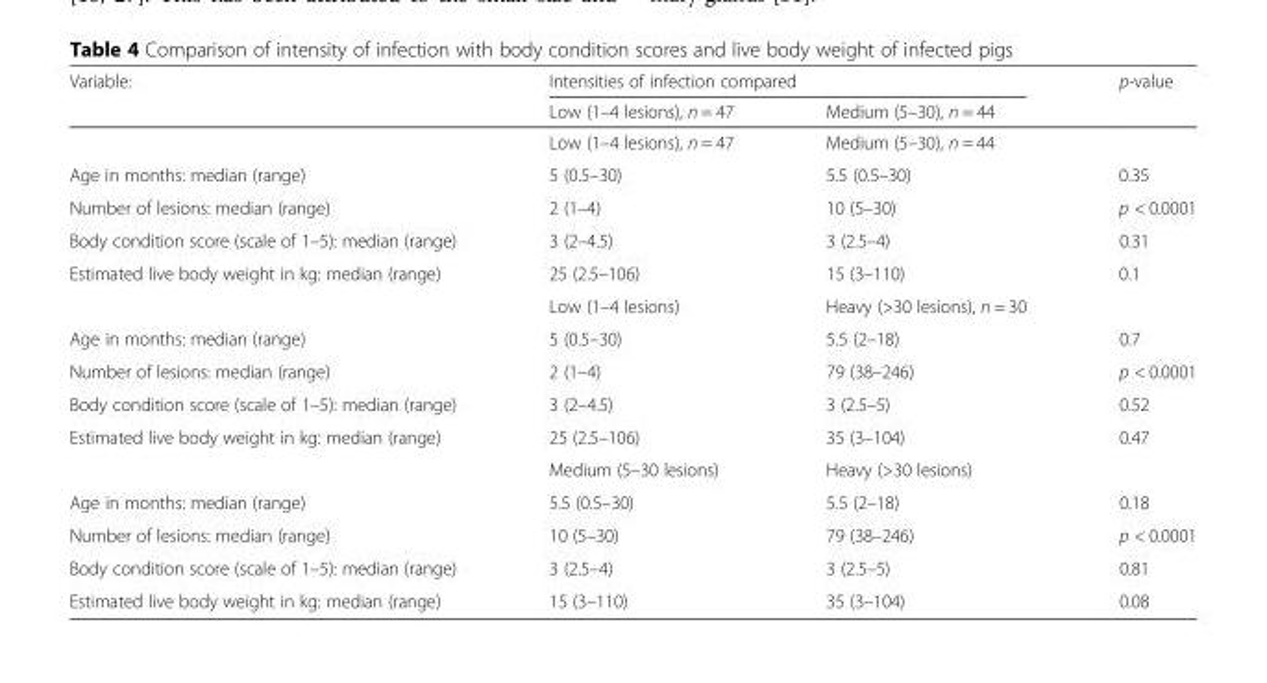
<table><thead><tr><td rowspan="2">Variable:</td><td colspan="2">Intensities of infection compared</td><td rowspan="2">p-value</td></tr><tr><td>Low (1–4 lesions), n = 47</td><td>Medium (5–30), n = 44</td></tr></thead><tbody><tr><td></td><td>Low (1–4 lesions), n = 47</td><td>Medium (5–30), n = 44</td><td></td></tr><tr><td>Age in months: median (range)</td><td>5 (0.5–30)</td><td>5.5 (0.5–30)</td><td>0.35</td></tr><tr><td>Number of lesions: median (range)</td><td>2 (1–4)</td><td>10 (5–30)</td><td>p &lt; 0.0001</td></tr><tr><td>Body condition score (scale of 1–5): median (range)</td><td>3 (2–4.5)</td><td>3 (2.5–4)</td><td>0.31</td></tr><tr><td rowspan="2">Estimated live body weight in kg: median (range)</td><td>25 (2.5–106)</td><td>15 (3–110)</td><td>0.1</td></tr><tr><td>Low (1–4 lesions)</td><td>Heavy (&gt;30 lesions), n = 30</td><td></td></tr><tr><td>Age in months: median (range)</td><td>5 (0.5–30)</td><td>5.5 (2–18)</td><td>0.7</td></tr><tr><td>Number of lesions: median (range)</td><td>2 (1–4)</td><td>79 (38–246)</td><td>p &lt; 0.0001</td></tr><tr><td>Body condition score (scale of 1–5): median (range)</td><td>3 (2–4.5)</td><td>3 (2.5–5)</td><td>0.52</td></tr><tr><td rowspan="2">Estimated live body weight in kg: median (range)</td><td>25 (2.5–106)</td><td>35 (3–104)</td><td>0.47</td></tr><tr><td>Medium (5–30 lesions)</td><td>Heavy (&gt;30 lesions)</td><td></td></tr><tr><td>Age in months: median (range)</td><td>5.5 (0.5–30)</td><td>5.5 (2–18)</td><td>0.18</td></tr><tr><td>Number of lesions: median (range)</td><td>10 (5–30)</td><td>79 (38–246)</td><td>p &lt; 0.0001</td></tr><tr><td>Body condition score (scale of 1–5): median (range)</td><td>3 (2.5–4)</td><td>3 (2.5–5)</td><td>0.81</td></tr><tr><td>Estimated live body weight in kg: median (range)</td><td>15 (3–110)</td><td>35 (3–104)</td><td>0.08</td></tr></tbody></table>